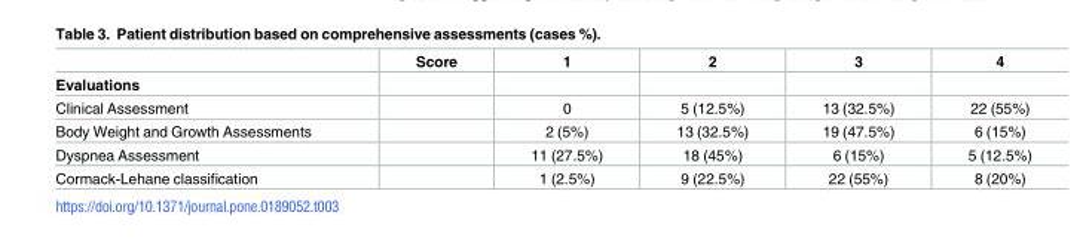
<table><thead><tr><td rowspan="2">Evaluations</td><td rowspan="2">Score</td><td rowspan="2">1</td><td rowspan="2">2</td><td rowspan="2">3</td><td rowspan="2">4</td></tr><tr></tr></thead><tbody><tr><td>Clinical Assessment</td><td></td><td>0</td><td>5 (12.5%)</td><td>13 (32.5%)</td><td>22 (55%)</td></tr><tr><td>Body Weight and Growth Assessments</td><td></td><td>2 (5%)</td><td>13 (32.5%)</td><td>19 (47.5%)</td><td>6 (15%)</td></tr><tr><td>Dyspnea Assessment</td><td></td><td>11 (27.5%)</td><td>18 (45%)</td><td>6 (15%)</td><td>5 (12.5%)</td></tr><tr><td>Cormack-Lehane classification</td><td></td><td>1 (2.5%)</td><td>9 (22.5%)</td><td>22 (55%)</td><td>8 (20%)</td></tr></tbody></table>